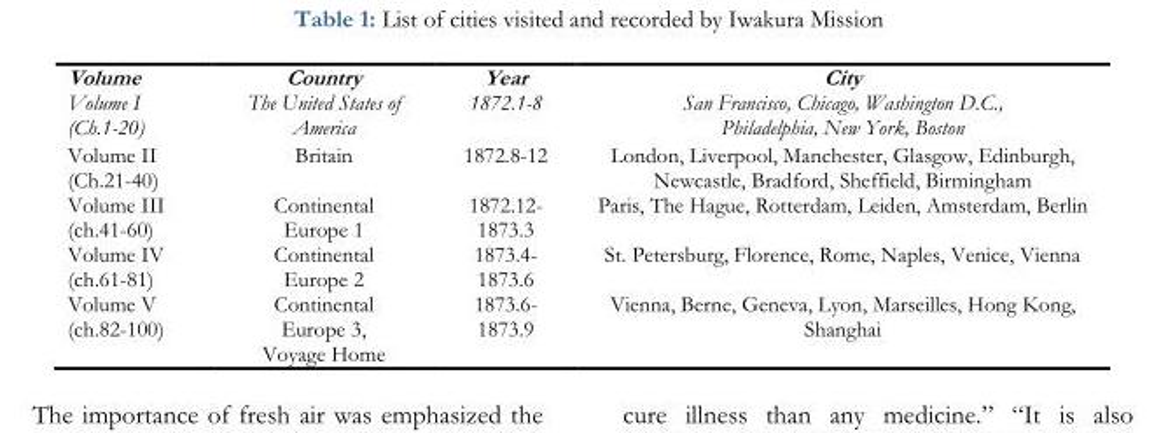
<table><tbody><tr><td>Volume</td><td>Country</td><td>Year</td><td>City</td></tr><tr><td>Volume I (Ch.1-20)</td><td>The United States of America</td><td>1872.1-8</td><td>San Francisco, Chicago, Washington D.C., Philadelphia, New York, Boston</td></tr><tr><td>Volume II (Ch.21-40)</td><td>Britain</td><td>1872.8-12</td><td>London, Liverpool, Manchester, Glasgow, Edinburgh, Newcastle, Bradford, Sheffield, Birmingham</td></tr><tr><td>Volume III (ch.41-60)</td><td>Continental Europe 1</td><td>1872.12- 1873.3</td><td>Paris, The Hague, Rotterdam, Leiden, Amsterdam, Berlin</td></tr><tr><td>Volume IV (ch.61-81)</td><td>Continental Europe 2</td><td>1873.4- 1873.6</td><td>St. Petersburg, Florence, Rome, Naples, Venice, Vienna</td></tr><tr><td>Volume V (ch.82-100)</td><td>Continental Europe 3, Voyage Home</td><td>1873.6- 1873.9</td><td>Vienna, Berne, Geneva, Lyon, Marseilles, Hong Kong, Shanghai</td></tr></tbody></table>